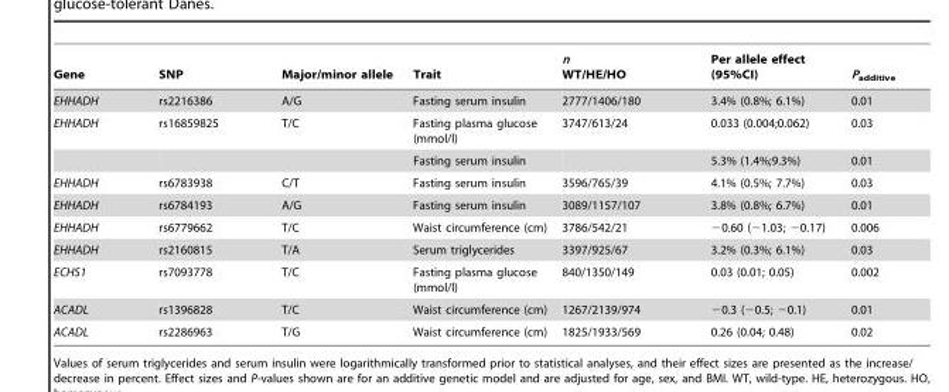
<table><thead><tr><td>Gene</td><td>SNP</td><td>Major/minor allele</td><td>Trait</td><td>n WT/HE/HO</td><td>Per allele effect (95%CI)</td><td>P<sub>additive</sub></td></tr></thead><tbody><tr><td>EHHADH</td><td>rs2216386</td><td>A/G</td><td>Fasting serum insulin</td><td>2777/1406/180</td><td>3.4% (0.8%; 6.1%)</td><td>0.01</td></tr><tr><td rowspan="2">EHHADH</td><td>rs16859825</td><td>T/C</td><td>Fasting plasma glucose (mmol/l)</td><td>3747/613/24</td><td>0.033 (0.004;0.062)</td><td>0.03</td></tr><tr><td></td><td></td><td>Fasting serum insulin</td><td></td><td>5.3% (1.4%;9.3%)</td><td>0.01</td></tr><tr><td>EHHADH</td><td>rs6783938</td><td>C/T</td><td>Fasting serum insulin</td><td>3596/765/39</td><td>4.1% (0.5%; 7.7%)</td><td>0.03</td></tr><tr><td>EHHADH</td><td>rs6784193</td><td>A/G</td><td>Fasting serum insulin</td><td>3089/1157/107</td><td>3.8% (0.8%; 6.7%)</td><td>0.01</td></tr><tr><td>EHHADH</td><td>rs6779662</td><td>T/C</td><td>Waist circumference (cm)</td><td>3786/542/21</td><td>−0.60 (−1.03; −0.17)</td><td>0.006</td></tr><tr><td>EHHADH</td><td>rs2160815</td><td>T/A</td><td>Serum triglycerides</td><td>3397/925/67</td><td>3.2% (0.3%; 6.1%)</td><td>0.03</td></tr><tr><td>ECHS1</td><td>rs7093778</td><td>T/C</td><td>Fasting plasma glucose (mmol/l)</td><td>840/1350/149</td><td>0.03 (0.01; 0.05)</td><td>0.002</td></tr><tr><td>ACADL</td><td>rs1396828</td><td>T/C</td><td>Waist circumference (cm)</td><td>1267/2139/974</td><td>−0.3 (−0.5; −0.1)</td><td>0.01</td></tr><tr><td>ACADL</td><td>rs2286963</td><td>T/G</td><td>Waist circumference (cm)</td><td>1825/1933/569</td><td>0.26 (0.04; 0.48)</td><td>0.02</td></tr></tbody></table>